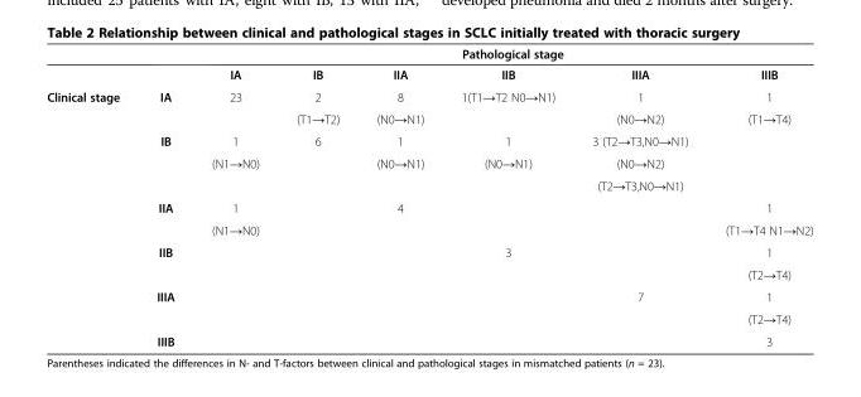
<table><thead><tr><td rowspan="2"></td><td rowspan="2"></td><td colspan="6">Pathological stage</td></tr><tr><td>IA</td><td>IB</td><td>IIA</td><td>IIB</td><td>IIIA</td><td>IIIB</td></tr></thead><tbody><tr><td rowspan="12">Clinical stage</td><td rowspan="2">IA</td><td>23</td><td>2</td><td>8</td><td>1(T1→T2 N0→N1)</td><td>1</td><td>1</td></tr><tr><td></td><td>(T1→T2)</td><td>(N0→N1)</td><td></td><td>(N0→N2)</td><td>(T1→T4)</td></tr><tr><td rowspan="3">IB</td><td>1</td><td>6</td><td>1</td><td>1</td><td>3 (T2→T3,N0→N1)</td><td></td></tr><tr><td rowspan="2">(N1→N0)</td><td rowspan="2"></td><td rowspan="2">(N0→N1)</td><td rowspan="2">(N0→N1)</td><td>(N0→N2)</td><td rowspan="2"></td></tr><tr><td>(T2→T3,N0→N1)</td></tr><tr><td rowspan="2">IIA</td><td>1</td><td></td><td>4</td><td></td><td></td><td>1</td></tr><tr><td>(N1→N0)</td><td></td><td></td><td></td><td></td><td>(T1→T4 N1→N2)</td></tr><tr><td rowspan="2">IIB</td><td rowspan="2"></td><td rowspan="2"></td><td rowspan="2"></td><td rowspan="2">3</td><td rowspan="2"></td><td>1</td></tr><tr><td>(T2→T4)</td></tr><tr><td rowspan="2">IIIA</td><td rowspan="2"></td><td rowspan="2"></td><td rowspan="2"></td><td rowspan="2"></td><td rowspan="2">7</td><td>1</td></tr><tr><td>(T2→T4)</td></tr><tr><td>IIIB</td><td></td><td></td><td></td><td></td><td></td><td>3</td></tr></tbody></table>